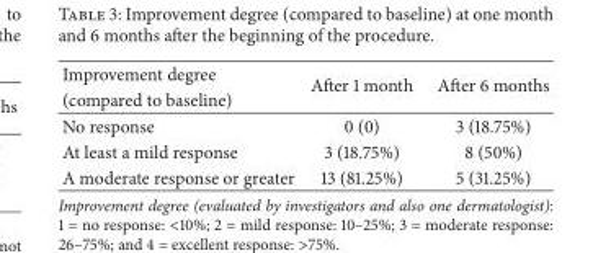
<table><thead><tr><td rowspan="2">Improvement degree (compared to baseline)</td><td rowspan="2">After 1 month</td><td rowspan="2">After 6 months</td></tr><tr></tr></thead><tbody><tr><td>No response</td><td>0 (0)</td><td>3 (18.75%)</td></tr><tr><td>At least a mild response</td><td>3 (18.75%)</td><td>8 (50%)</td></tr><tr><td>A moderate response or greater</td><td>13 (81.25%)</td><td>5 (31.25%)</td></tr></tbody></table>